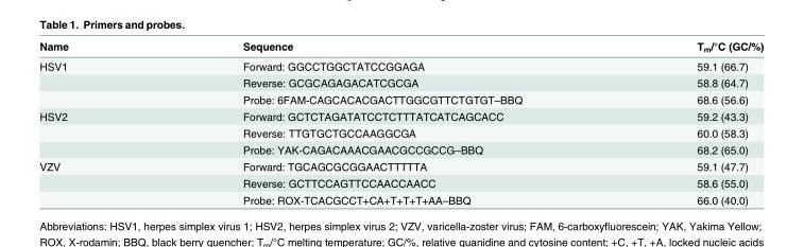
<table><thead><tr><td>Name</td><td>Sequence</td><td>T<sub>m</sub>/°C (GC/%)</td></tr></thead><tbody><tr><td rowspan="3">HSV1</td><td>Forward: GGCCTGGCTATCCGGAGA</td><td>59.1 (66.7)</td></tr><tr><td>Reverse: GCGCAGAGACATCGCGA</td><td>58.8 (64.7)</td></tr><tr><td>Probe: 6FAM-CAGCACACGACTTGGCGTTCTGTGT–BBQ</td><td>68.6 (56.6)</td></tr><tr><td rowspan="3">HSV2</td><td>Forward: GCTCTAGATATCCTCTTTATCATCAGCACC</td><td>59.2 (43.3)</td></tr><tr><td>Reverse: TTGTGCTGCCAAGGCGA</td><td>60.0 (58.3)</td></tr><tr><td>Probe: YAK-CAGACAAACGAACGCCGCCG–BBQ</td><td>68.2 (65.0)</td></tr><tr><td rowspan="3">VZV</td><td>Forward: TGCAGCGCGGAACTTTTTA</td><td>59.1 (47.7)</td></tr><tr><td>Reverse: GCTTCCAGTTCCAACCAACC</td><td>58.6 (55.0)</td></tr><tr><td>Probe: ROX-TCACGCCT+CA+T+T+T+AA–BBQ</td><td>66.0 (40.0)</td></tr></tbody></table>